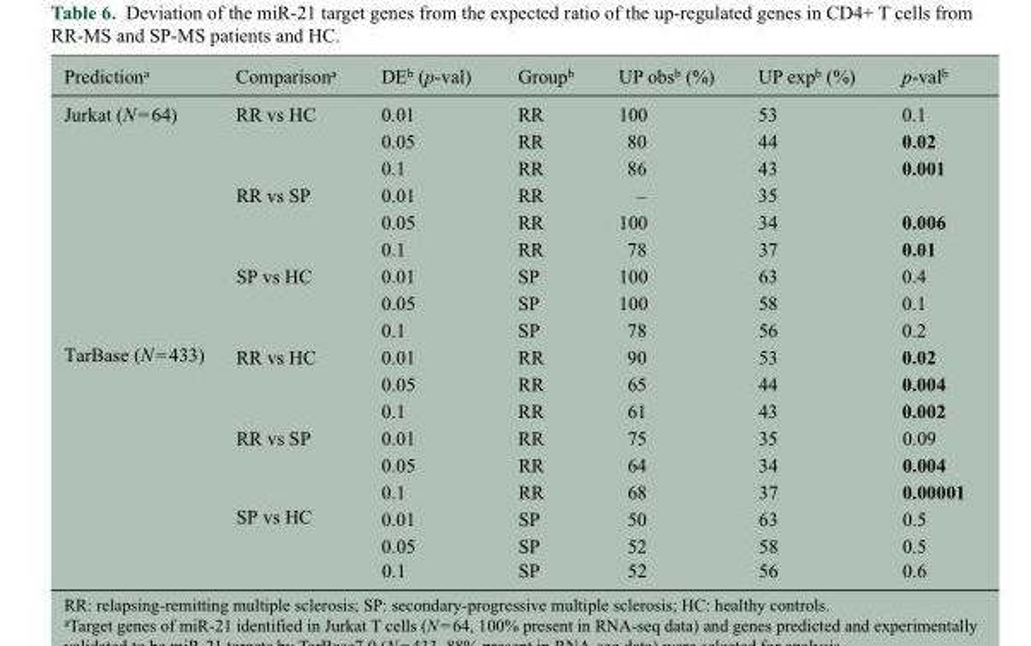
<table><thead><tr><td>Prediction<sup>a</sup></td><td>Comparison<sup>a</sup></td><td>DE<sup>b</sup> (p-val)</td><td>Group<sup>b</sup></td><td>UP obs<sup>b</sup> (%)</td><td>UP exp<sup>b</sup> (%)</td><td>p-val<sup>b</sup></td></tr></thead><tbody><tr><td rowspan="9">Jurkat (N = 64)</td><td rowspan="3">RR vs HC</td><td>0.01</td><td>RR</td><td>100</td><td>53</td><td>0.1</td></tr><tr><td>0.05</td><td>RR</td><td>80</td><td>44</td><td>0.02</td></tr><tr><td>0.1</td><td>RR</td><td>86</td><td>43</td><td>0.001</td></tr><tr><td rowspan="3">RR vs SP</td><td>0.01</td><td>RR</td><td>–</td><td>35</td><td></td></tr><tr><td>0.05</td><td>RR</td><td>100</td><td>34</td><td>0.006</td></tr><tr><td>0.1</td><td>RR</td><td>78</td><td>37</td><td>0.01</td></tr><tr><td rowspan="3">SP vs HC</td><td>0.01</td><td>SP</td><td>100</td><td>63</td><td>0.4</td></tr><tr><td>0.05</td><td>SP</td><td>100</td><td>58</td><td>0.1</td></tr><tr><td>0.1</td><td>SP</td><td>78</td><td>56</td><td>0.2</td></tr><tr><td rowspan="9">TarBase (N = 433)</td><td rowspan="3">RR vs HC</td><td>0.01</td><td>RR</td><td>90</td><td>53</td><td>0.02</td></tr><tr><td>0.05</td><td>RR</td><td>65</td><td>44</td><td>0.004</td></tr><tr><td>0.1</td><td>RR</td><td>61</td><td>43</td><td>0.002</td></tr><tr><td rowspan="3">RR vs SP</td><td>0.01</td><td>RR</td><td>75</td><td>35</td><td>0.09</td></tr><tr><td>0.05</td><td>RR</td><td>64</td><td>34</td><td>0.004</td></tr><tr><td>0.1</td><td>RR</td><td>68</td><td>37</td><td>0.00001</td></tr><tr><td rowspan="3">SP vs HC</td><td>0.01</td><td>SP</td><td>50</td><td>63</td><td>0.5</td></tr><tr><td>0.05</td><td>SP</td><td>52</td><td>58</td><td>0.5</td></tr><tr><td>0.1</td><td>SP</td><td>52</td><td>56</td><td>0.6</td></tr></tbody></table>